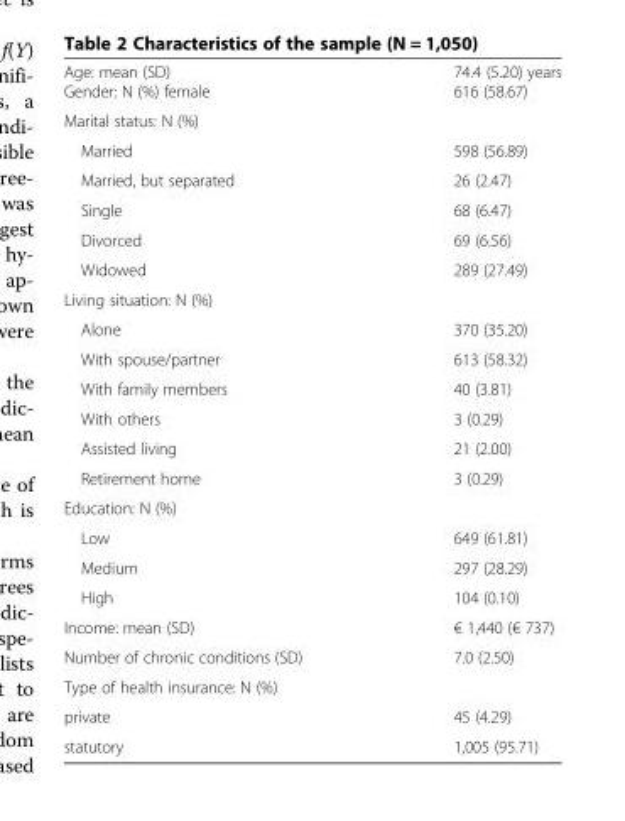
<table><tbody><tr><td>Age: mean (SD)</td><td>74.4 (5.20) years</td></tr><tr><td>Gender: N (%) female</td><td>616 (58.67)</td></tr><tr><td colspan="2">Marital status: N (%)</td></tr><tr><td>Married</td><td>598 (56.89)</td></tr><tr><td>Married, but separated</td><td>26 (2.47)</td></tr><tr><td>Single</td><td>68 (6.47)</td></tr><tr><td>Divorced</td><td>69 (6.56)</td></tr><tr><td>Widowed</td><td>289 (27.49)</td></tr><tr><td colspan="2">Living situation: N (%)</td></tr><tr><td>Alone</td><td>370 (35.20)</td></tr><tr><td>With spouse/partner</td><td>613 (58.32)</td></tr><tr><td>With family members</td><td>40 (3.81)</td></tr><tr><td>With others</td><td>3 (0.29)</td></tr><tr><td>Assisted living</td><td>21 (2.00)</td></tr><tr><td>Retirement home</td><td>3 (0.29)</td></tr><tr><td colspan="2">Education: N (%)</td></tr><tr><td>Low</td><td>649 (61.81)</td></tr><tr><td>Medium</td><td>297 (28.29)</td></tr><tr><td>High</td><td>104 (0.10)</td></tr><tr><td>Income: mean (SD)</td><td>€ 1,440 (€ 737)</td></tr><tr><td>Number of chronic conditions (SD)</td><td>7.0 (2.50)</td></tr><tr><td colspan="2">Type of health insurance: N (%)</td></tr><tr><td>private</td><td>45 (4.29)</td></tr><tr><td>statutory</td><td>1,005 (95.71)</td></tr></tbody></table>